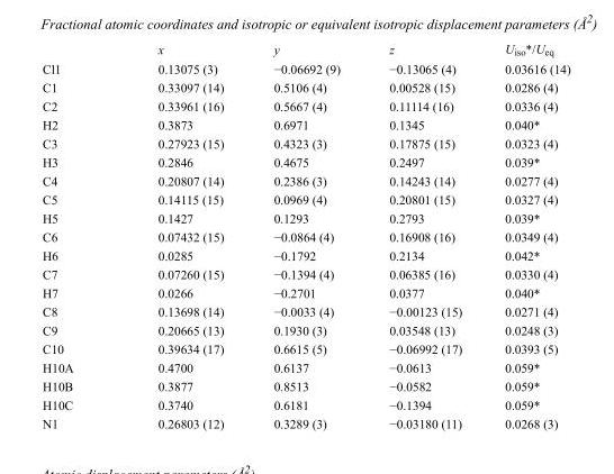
<table><thead><tr><td></td><td>x</td><td>y</td><td>z</td><td>U<sub>iso</sub>*/U<sub>eq</sub></td></tr></thead><tbody><tr><td>Cl1</td><td>0.13075 (3)</td><td>−0.06692 (9)</td><td>−0.13065 (4)</td><td>0.03616 (14)</td></tr><tr><td>C1</td><td>0.33097 (14)</td><td>0.5106 (4)</td><td>0.00528 (15)</td><td>0.0286 (4)</td></tr><tr><td>C2</td><td>0.33961 (16)</td><td>0.5667 (4)</td><td>0.11114 (16)</td><td>0.0336 (4)</td></tr><tr><td>H2</td><td>0.3873</td><td>0.6971</td><td>0.1345</td><td>0.040*</td></tr><tr><td>C3</td><td>0.27923 (15)</td><td>0.4323 (3)</td><td>0.17875 (15)</td><td>0.0323 (4)</td></tr><tr><td>H3</td><td>0.2846</td><td>0.4675</td><td>0.2497</td><td>0.039*</td></tr><tr><td>C4</td><td>0.20807 (14)</td><td>0.2386 (3)</td><td>0.14243 (14)</td><td>0.0277 (4)</td></tr><tr><td>C5</td><td>0.14115 (15)</td><td>0.0969 (4)</td><td>0.20801 (15)</td><td>0.0327 (4)</td></tr><tr><td>H5</td><td>0.1427</td><td>0.1293</td><td>0.2793</td><td>0.039*</td></tr><tr><td>C6</td><td>0.07432 (15)</td><td>−0.0864 (4)</td><td>0.16908 (16)</td><td>0.0349 (4)</td></tr><tr><td>H6</td><td>0.0285</td><td>−0.1792</td><td>0.2134</td><td>0.042*</td></tr><tr><td>C7</td><td>0.07260 (15)</td><td>−0.1394 (4)</td><td>0.06385 (16)</td><td>0.0330 (4)</td></tr><tr><td>H7</td><td>0.0266</td><td>−0.2701</td><td>0.0377</td><td>0.040*</td></tr><tr><td>C8</td><td>0.13698 (14)</td><td>−0.0033 (4)</td><td>−0.00123 (15)</td><td>0.0271 (4)</td></tr><tr><td>C9</td><td>0.20665 (13)</td><td>0.1930 (3)</td><td>0.03548 (13)</td><td>0.0248 (3)</td></tr><tr><td>C10</td><td>0.39634 (17)</td><td>0.6615 (5)</td><td>−0.06992 (17)</td><td>0.0393 (5)</td></tr><tr><td>H10A</td><td>0.4700</td><td>0.6137</td><td>−0.0613</td><td>0.059*</td></tr><tr><td>H10B</td><td>0.3877</td><td>0.8513</td><td>−0.0582</td><td>0.059*</td></tr><tr><td>H10C</td><td>0.3740</td><td>0.6181</td><td>−0.1394</td><td>0.059*</td></tr><tr><td>N1</td><td>0.26803 (12)</td><td>0.3289 (3)</td><td>−0.03180 (11)</td><td>0.0268 (3)</td></tr></tbody></table>